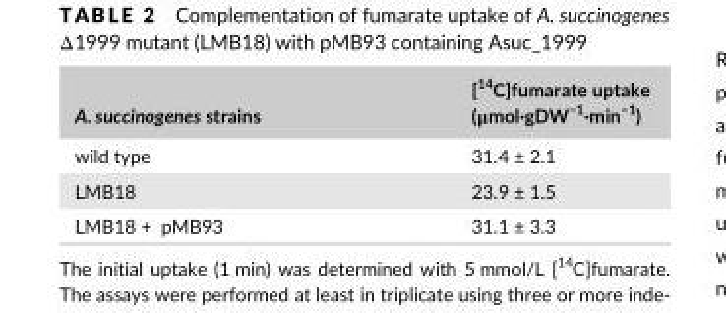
<table><thead><tr><td>A. succinogenes strains</td><td>[<sup>14</sup>C]fumarate uptake (μmol·gDW<sup>−1</sup>·min<sup>−1</sup>)</td></tr></thead><tbody><tr><td>wild type</td><td>31.4 ± 2.1</td></tr><tr><td>LMB18</td><td>23.9 ± 1.5</td></tr><tr><td>LMB18 + pMB93</td><td>31.1 ± 3.3</td></tr></tbody></table>